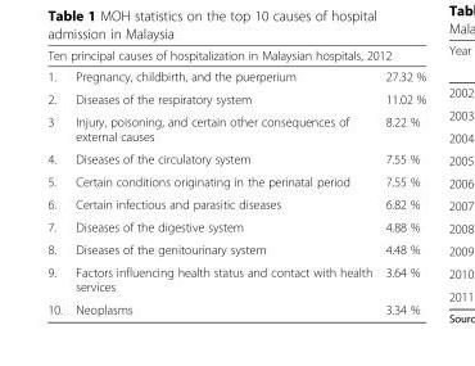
<table><thead><tr><td colspan="3">Ten principal causes of hospitalization in Malaysian hospitals, 2012</td></tr><tr><td>1.</td><td>Pregnancy, childbirth, and the puerperium</td><td>27.32 %</td></tr></thead><tbody><tr><td>2.</td><td>Diseases of the respiratory system</td><td>11.02 %</td></tr><tr><td>3</td><td>Injury, poisoning, and certain other consequences of external causes</td><td>8.22 %</td></tr><tr><td>4.</td><td>Diseases of the circulatory system</td><td>7.55 %</td></tr><tr><td>5.</td><td>Certain conditions originating in the perinatal period</td><td>7.55 %</td></tr><tr><td>6.</td><td>Certain infectious and parasitic diseases</td><td>6.82 %</td></tr><tr><td>7.</td><td>Diseases of the digestive system</td><td>4.88 %</td></tr><tr><td>8.</td><td>Diseases of the genitourinary system</td><td>4.48 %</td></tr><tr><td>9.</td><td>Factors influencing health status and contact with health services</td><td>3.64 %</td></tr><tr><td>10.</td><td>Neoplasms</td><td>3.34 %</td></tr></tbody></table>